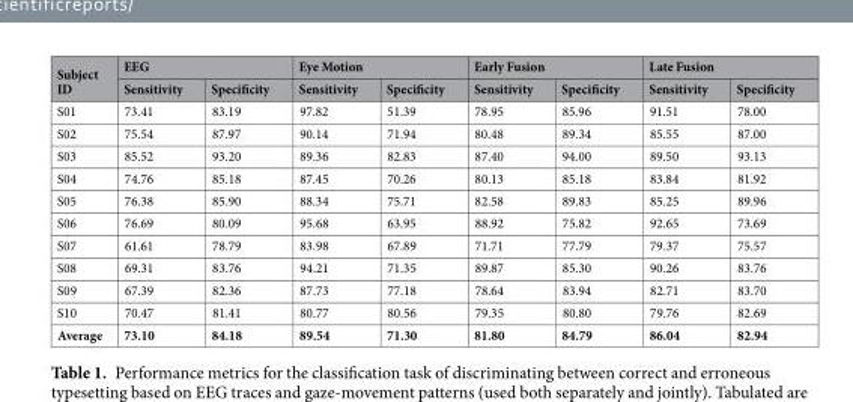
<table><thead><tr><td rowspan="2">Subject ID</td><td colspan="2">EEG</td><td colspan="2">Eye Motion</td><td colspan="2">Early Fusion</td><td colspan="2">Late Fusion</td></tr><tr><td>Sensitivity</td><td>Specificity</td><td>Sensitivity</td><td>Specificity</td><td>Sensitivity</td><td>Specificity</td><td>Sensitivity</td><td>Specificity</td></tr></thead><tbody><tr><td>S01</td><td>73.41</td><td>83.19</td><td>97.82</td><td>51.39</td><td>78.95</td><td>85.96</td><td>91.51</td><td>78.00</td></tr><tr><td>S02</td><td>75.54</td><td>87.97</td><td>90.14</td><td>71.94</td><td>80.48</td><td>89.34</td><td>85.55</td><td>87.00</td></tr><tr><td>S03</td><td>85.52</td><td>93.20</td><td>89.36</td><td>82.83</td><td>87.40</td><td>94.00</td><td>89.50</td><td>93.13</td></tr><tr><td>S04</td><td>74.76</td><td>85.18</td><td>87.45</td><td>70.26</td><td>80.13</td><td>85.18</td><td>83.84</td><td>81.92</td></tr><tr><td>S05</td><td>76.38</td><td>85.90</td><td>88.34</td><td>75.71</td><td>82.58</td><td>89.83</td><td>85.25</td><td>89.96</td></tr><tr><td>S06</td><td>76.69</td><td>80.09</td><td>95.68</td><td>63.95</td><td>88.92</td><td>75.82</td><td>92.65</td><td>73.69</td></tr><tr><td>S07</td><td>61.61</td><td>78.79</td><td>83.98</td><td>67.89</td><td>71.71</td><td>77.79</td><td>79.37</td><td>75.57</td></tr><tr><td>S08</td><td>69.31</td><td>83.76</td><td>94.21</td><td>71.35</td><td>89.87</td><td>85.30</td><td>90.26</td><td>83.76</td></tr><tr><td>S09</td><td>67.39</td><td>82.36</td><td>87.73</td><td>77.18</td><td>78.64</td><td>83.94</td><td>82.71</td><td>83.70</td></tr><tr><td>S10</td><td>70.47</td><td>81.41</td><td>80.77</td><td>80.56</td><td>79.35</td><td>80.80</td><td>79.76</td><td>82.69</td></tr><tr><td>Average</td><td>73.10</td><td>84.18</td><td>89.54</td><td>71.30</td><td>81.80</td><td>84.79</td><td>86.04</td><td>82.94</td></tr></tbody></table>